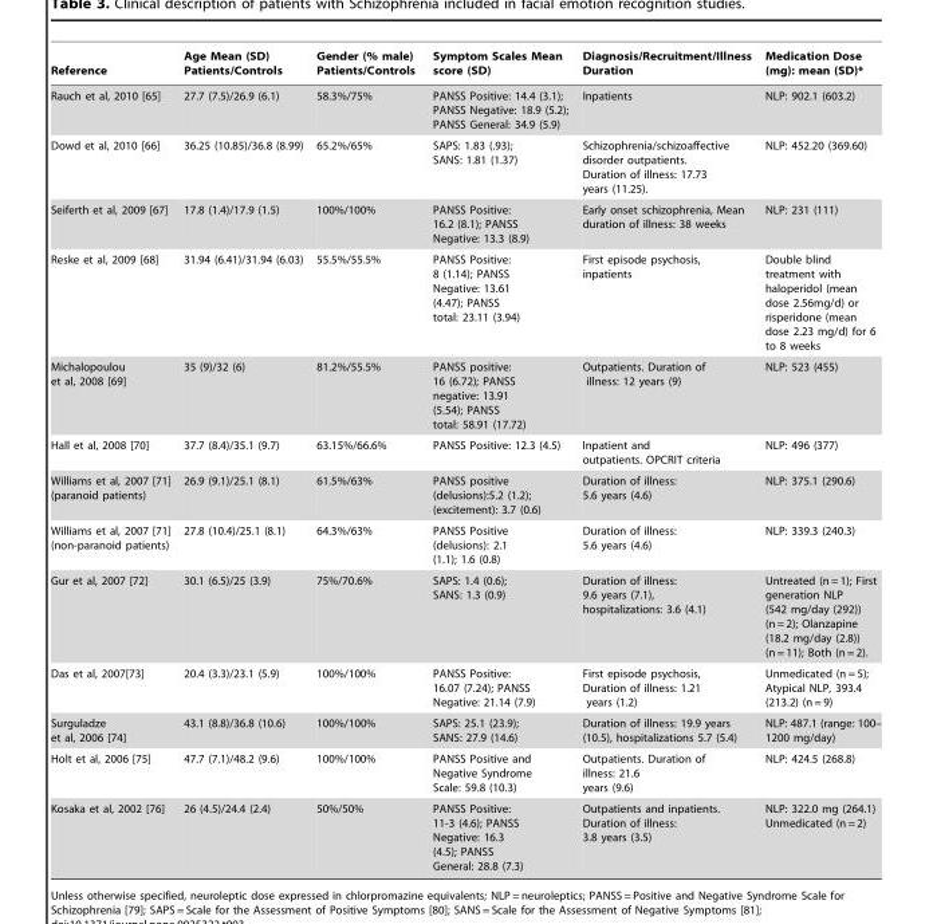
<table><thead><tr><td>Reference</td><td>Age Mean (SD) Patients/Controls</td><td>Gender (% male) Patients/Controls</td><td>Symptom Scales Mean score (SD)</td><td>Diagnosis/Recruitment/Illness Duration</td><td>Medication Dose (mg): mean (SD)*</td></tr></thead><tbody><tr><td>Rauch et al, 2010 [65]</td><td>27.7 (7.5)/26.9 (6.1)</td><td>58.3%/75%</td><td>PANSS Positive: 14.4 (3.1); PANSS Negative: 18.9 (5.2); PANSS General: 34.9 (5.9)</td><td>Inpatients</td><td>NLP: 902.1 (603.2)</td></tr><tr><td>Dowd et al, 2010 [66]</td><td>36.25 (10.85)/36.8 (8.99)</td><td>65.2%/65%</td><td>SAPS: 1.83 (.93); SANS: 1.81 (1.37)</td><td>Schizophrenia/schizoaffective disorder outpatients. Duration of illness: 17.73 years (11.25).</td><td>NLP: 452.20 (369.60)</td></tr><tr><td>Seiferth et al, 2009 [67]</td><td>17.8 (1.4)/17.9 (1.5)</td><td>100%/100%</td><td>PANSS Positive: 16.2 (8.1); PANSS Negative: 13.3 (8.9)</td><td>Early onset schizophrenia, Mean duration of illness: 38 weeks</td><td>NLP: 231 (111)</td></tr><tr><td>Reske et al, 2009 [68]</td><td>31.94 (6.41)/31.94 (6.03)</td><td>55.5%/55.5%</td><td>PANSS Positive: 8 (1.14); PANSS Negative: 13.61 (4.47); PANSS total: 23.11 (3.94)</td><td>First episode psychosis, inpatients</td><td>Double blind treatment with haloperidol (mean dose 2.56mg/d) or risperidone (mean dose 2.23 mg/d) for 6 to 8 weeks</td></tr><tr><td>Michalopoulou et al, 2008 [69]</td><td>35 (9)/32 (6)</td><td>81.2%/55.5%</td><td>PANSS positive: 16 (6.72); PANSS negative: 13.91 (5.54); PANSS total: 58.91 (17.72)</td><td>Outpatients. Duration of illness: 12 years (9)</td><td>NLP: 523 (455)</td></tr><tr><td>Hall et al, 2008 [70]</td><td>37.7 (8.4)/35.1 (9.7)</td><td>63.15%/66.6%</td><td>PANSS Positive: 12.3 (4.5)</td><td>Inpatient and outpatients. OPCRIT criteria</td><td>NLP: 496 (377)</td></tr><tr><td>Williams et al, 2007 [71] (paranoid patients)</td><td>26.9 (9.1)/25.1 (8.1)</td><td>61.5%/63%</td><td>PANSS positive (delusions):5.2 (1.2); (excitement): 3.7 (0.6)</td><td>Duration of illness: 5.6 years (4.6)</td><td>NLP: 375.1 (290.6)</td></tr><tr><td>Williams et al, 2007 [71] (non-paranoid patients)</td><td>27.8 (10.4)/25.1 (8.1)</td><td>64.3%/63%</td><td>PANSS Positive (delusions): 2.1 (1.1); 1.6 (0.8)</td><td>Duration of illness: 5.6 years (4.6)</td><td>NLP: 339.3 (240.3)</td></tr><tr><td>Gur et al, 2007 [72]</td><td>30.1 (6.5)/25 (3.9)</td><td>75%/70.6%</td><td>SAPS: 1.4 (0.6); SANS: 1.3 (0.9)</td><td>Duration of illness: 9.6 years (7.1), hospitalizations: 3.6 (4.1)</td><td>Untreated (n = 1); First generation NLP (542 mg/day (292)) (n = 2); Olanzapine (18.2 mg/day (2.8)) (n = 11); Both (n = 2).</td></tr><tr><td>Das et al, 2007[73]</td><td>20.4 (3.3)/23.1 (5.9)</td><td>100%/100%</td><td>PANSS Positive: 16.07 (7.24); PANSS Negative: 21.14 (7.9)</td><td>First episode psychosis, Duration of illness: 1.21 years (1.2)</td><td>Unmedicated (n = 5); Atypical NLP, 393.4 (213.2) (n = 9)</td></tr><tr><td>Surguladze et al, 2006 [74]</td><td>43.1 (8.8)/36.8 (10.6)</td><td>100%/100%</td><td>SAPS: 25.1 (23.9); SANS: 27.9 (14.6)</td><td>Duration of illness: 19.9 years (10.5), hospitalizations 5.7 (5.4)</td><td>NLP: 487.1 (range: 100– 1200 mg/day)</td></tr><tr><td>Holt et al, 2006 [75]</td><td>47.7 (7.1)/48.2 (9.6)</td><td>100%/100%</td><td>PANSS Positive and Negative Syndrome Scale: 59.8 (10.3)</td><td>Outpatients. Duration of illness: 21.6 years (9.6)</td><td>NLP: 424.5 (268.8)</td></tr><tr><td>Kosaka et al, 2002 [76]</td><td>26 (4.5)/24.4 (2.4)</td><td>50%/50%</td><td>PANSS Positive: 11-3 (4.6); PANSS Negative: 16.3 (4.5); PANSS General: 28.8 (7.3)</td><td>Outpatients and inpatients. Duration of illness: 3.8 years (3.5)</td><td>NLP: 322.0 mg (264.1) Unmedicated (n = 2)</td></tr></tbody></table>